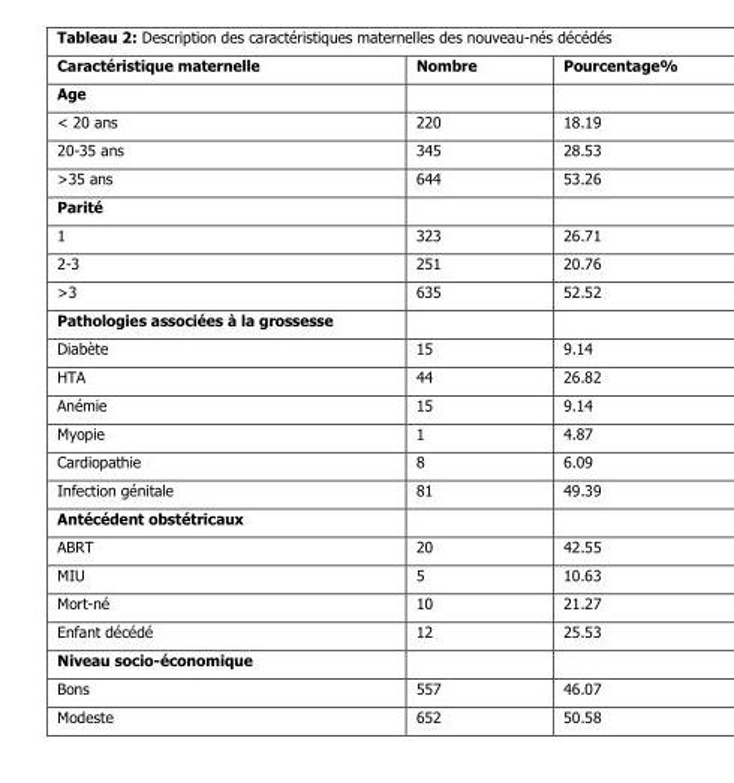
<table><thead><tr><td>Caractéristique maternelle</td><td>Nombre</td><td>Pourcentage%</td></tr></thead><tbody><tr><td colspan="3">Age</td></tr><tr><td>&lt; 20 ans</td><td>220</td><td>18.19</td></tr><tr><td>20-35 ans</td><td>345</td><td>28.53</td></tr><tr><td>&gt;35 ans</td><td>644</td><td>53.26</td></tr><tr><td colspan="3">Parité</td></tr><tr><td>1</td><td>323</td><td>26.71</td></tr><tr><td>2-3</td><td>251</td><td>20.76</td></tr><tr><td>&gt;3</td><td>635</td><td>52.52</td></tr><tr><td colspan="3">Pathologies associées à la grossesse</td></tr><tr><td>Diabète</td><td>15</td><td>9.14</td></tr><tr><td>HTA</td><td>44</td><td>26.82</td></tr><tr><td>Anémie</td><td>15</td><td>9.14</td></tr><tr><td>Myopie</td><td>1</td><td>4.87</td></tr><tr><td>Cardiopathie</td><td>8</td><td>6.09</td></tr><tr><td>Infection génitale</td><td>81</td><td>49.39</td></tr><tr><td colspan="3">Antécédent obstétricaux</td></tr><tr><td>ABRT</td><td>20</td><td>42.55</td></tr><tr><td>MIU</td><td>5</td><td>10.63</td></tr><tr><td>Mort-né</td><td>10</td><td>21.27</td></tr><tr><td>Enfant décédé</td><td>12</td><td>25.53</td></tr><tr><td colspan="3">Niveau socio-économique</td></tr><tr><td>Bons</td><td>557</td><td>46.07</td></tr><tr><td>Modeste</td><td>652</td><td>50.58</td></tr></tbody></table>